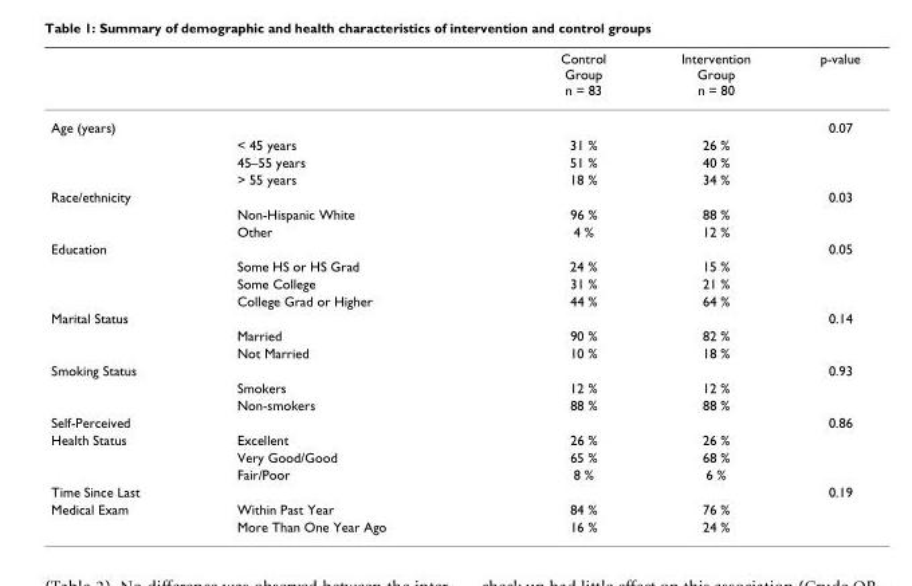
<table><thead><tr><td></td><td></td><td>Control Group n = 83</td><td>Intervention Group n = 80</td><td>p-value</td></tr></thead><tbody><tr><td rowspan="4">Age (years)</td><td></td><td></td><td></td><td>0.07</td></tr><tr><td>&lt; 45 years</td><td>31 %</td><td>26 %</td><td></td></tr><tr><td>45–55 years</td><td>51 %</td><td>40 %</td><td></td></tr><tr><td>&gt; 55 years</td><td>18 %</td><td>34 %</td><td></td></tr><tr><td rowspan="3">Race/ethnicity</td><td></td><td></td><td></td><td>0.03</td></tr><tr><td>Non-Hispanic White</td><td>96 %</td><td>88 %</td><td></td></tr><tr><td>Other</td><td>4 %</td><td>12 %</td><td></td></tr><tr><td rowspan="4">Education</td><td></td><td></td><td></td><td>0.05</td></tr><tr><td>Some HS or HS Grad</td><td>24 %</td><td>15 %</td><td></td></tr><tr><td>Some College</td><td>31 %</td><td>21 %</td><td></td></tr><tr><td>College Grad or Higher</td><td>44 %</td><td>64 %</td><td></td></tr><tr><td rowspan="3">Marital Status</td><td></td><td></td><td></td><td>0.14</td></tr><tr><td>Married</td><td>90 %</td><td>82 %</td><td></td></tr><tr><td>Not Married</td><td>10 %</td><td>18 %</td><td></td></tr><tr><td rowspan="3">Smoking Status</td><td></td><td></td><td></td><td>0.93</td></tr><tr><td>Smokers</td><td>12 %</td><td>12 %</td><td></td></tr><tr><td>Non-smokers</td><td>88 %</td><td>88 %</td><td></td></tr><tr><td>Self-Perceived</td><td></td><td></td><td></td><td>0.86</td></tr><tr><td rowspan="3">Health Status</td><td>Excellent</td><td>26 %</td><td>26 %</td><td></td></tr><tr><td>Very Good/Good</td><td>65 %</td><td>68 %</td><td></td></tr><tr><td>Fair/Poor</td><td>8 %</td><td>6 %</td><td></td></tr><tr><td>Time Since Last</td><td></td><td></td><td></td><td>0.19</td></tr><tr><td rowspan="2">Medical Exam</td><td>Within Past Year</td><td>84 %</td><td>76 %</td><td></td></tr><tr><td>More Than One Year Ago</td><td>16 %</td><td>24 %</td><td></td></tr></tbody></table>